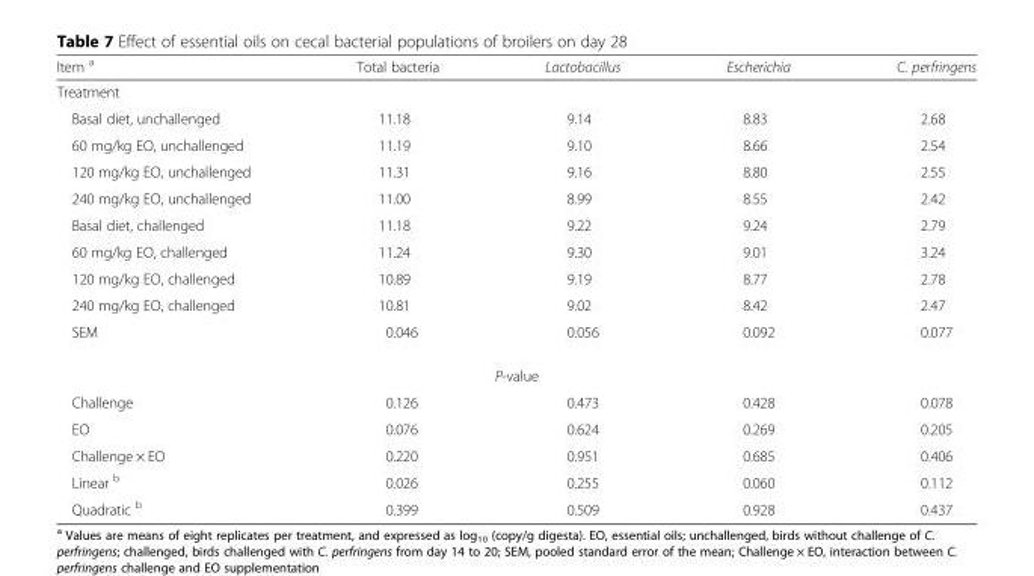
<table><thead><tr><td>Item <sup>a</sup></td><td>Total bacteria</td><td>Lactobacillus</td><td>Escherichia</td><td>C. perfringens</td></tr></thead><tbody><tr><td colspan="5">Treatment</td></tr><tr><td>Basal diet, unchallenged</td><td>11.18</td><td>9.14</td><td>8.83</td><td>2.68</td></tr><tr><td>60 mg/kg EO, unchallenged</td><td>11.19</td><td>9.10</td><td>8.66</td><td>2.54</td></tr><tr><td>120 mg/kg EO, unchallenged</td><td>11.31</td><td>9.16</td><td>8.80</td><td>2.55</td></tr><tr><td>240 mg/kg EO, unchallenged</td><td>11.00</td><td>8.99</td><td>8.55</td><td>2.42</td></tr><tr><td>Basal diet, challenged</td><td>11.18</td><td>9.22</td><td>9.24</td><td>2.79</td></tr><tr><td>60 mg/kg EO, challenged</td><td>11.24</td><td>9.30</td><td>9.01</td><td>3.24</td></tr><tr><td>120 mg/kg EO, challenged</td><td>10.89</td><td>9.19</td><td>8.77</td><td>2.78</td></tr><tr><td>240 mg/kg EO, challenged</td><td>10.81</td><td>9.02</td><td>8.42</td><td>2.47</td></tr><tr><td>SEM</td><td>0.046</td><td>0.056</td><td>0.092</td><td>0.077</td></tr><tr><td colspan="5">P-value</td></tr><tr><td>Challenge</td><td>0.126</td><td>0.473</td><td>0.428</td><td>0.078</td></tr><tr><td>EO</td><td>0.076</td><td>0.624</td><td>0.269</td><td>0.205</td></tr><tr><td>Challenge × EO</td><td>0.220</td><td>0.951</td><td>0.685</td><td>0.406</td></tr><tr><td>Linear <sup>b</sup></td><td>0.026</td><td>0.255</td><td>0.060</td><td>0.112</td></tr><tr><td>Quadratic <sup>b</sup></td><td>0.399</td><td>0.509</td><td>0.928</td><td>0.437</td></tr></tbody></table>